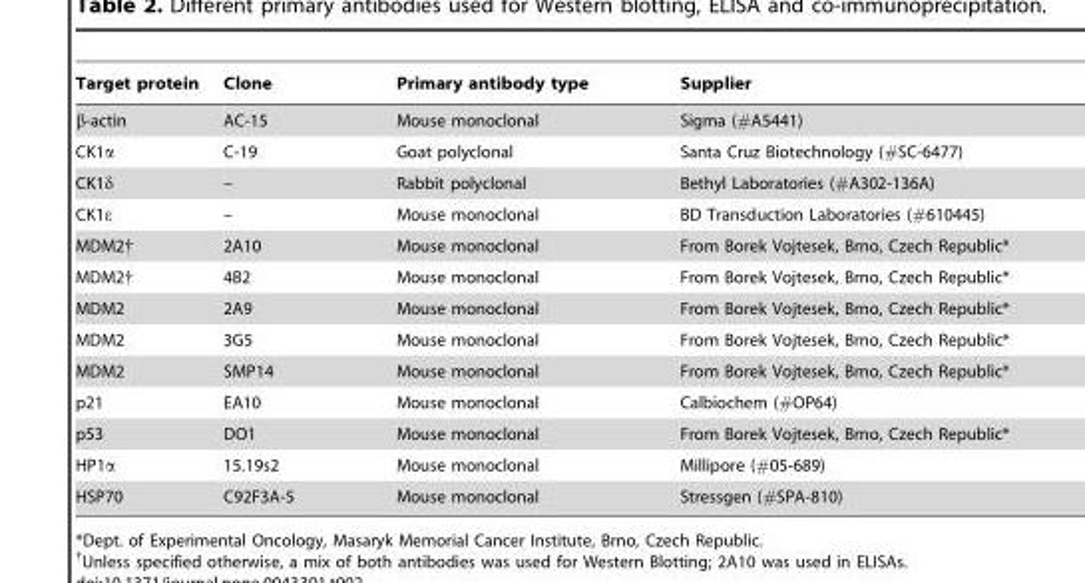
<table><thead><tr><td>Target protein</td><td>Clone</td><td>Primary antibody type</td><td>Supplier</td></tr></thead><tbody><tr><td>β-actin</td><td>AC-15</td><td>Mouse monoclonal</td><td>Sigma (#A5441)</td></tr><tr><td>CK1α</td><td>C-19</td><td>Goat polyclonal</td><td>Santa Cruz Biotechnology (#SC-6477)</td></tr><tr><td>CK1δ</td><td>–</td><td>Rabbit polyclonal</td><td>Bethyl Laboratories (#A302-136A)</td></tr><tr><td>CK1ε</td><td>–</td><td>Mouse monoclonal</td><td>BD Transduction Laboratories (#610445)</td></tr><tr><td>MDM2†</td><td>2A10</td><td>Mouse monoclonal</td><td>From Borek Vojtesek, Brno, Czech Republic*</td></tr><tr><td>MDM2†</td><td>4B2</td><td>Mouse monoclonal</td><td>From Borek Vojtesek, Brno, Czech Republic*</td></tr><tr><td>MDM2</td><td>2A9</td><td>Mouse monoclonal</td><td>From Borek Vojtesek, Brno, Czech Republic*</td></tr><tr><td>MDM2</td><td>3G5</td><td>Mouse monoclonal</td><td>From Borek Vojtesek, Brno, Czech Republic*</td></tr><tr><td>MDM2</td><td>SMP14</td><td>Mouse monoclonal</td><td>From Borek Vojtesek, Brno, Czech Republic*</td></tr><tr><td>p21</td><td>EA10</td><td>Mouse monoclonal</td><td>Calbiochem (#OP64)</td></tr><tr><td>p53</td><td>DO1</td><td>Mouse monoclonal</td><td>From Borek Vojtesek, Brno, Czech Republic*</td></tr><tr><td>HP1α</td><td>15.19s2</td><td>Mouse monoclonal</td><td>Millipore (#05-689)</td></tr><tr><td>HSP70</td><td>C92F3A-5</td><td>Mouse monoclonal</td><td>Stressgen (#SPA-810)</td></tr></tbody></table>